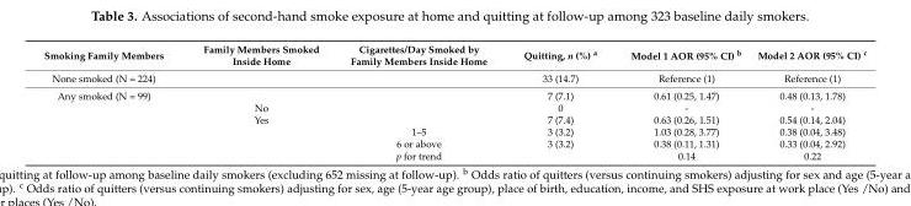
<table><thead><tr><td>Smoking Family Members</td><td>Family Members Smoked Inside Home</td><td>Cigarettes/Day Smoked by Family Members Inside Home</td><td>Quitting, n (%) <sup>a</sup></td><td>Model 1 AOR (95% CI) <sup>b</sup></td><td>Model 2 AOR (95% CI) <sup>c</sup></td></tr></thead><tbody><tr><td>None smoked (N = 224)</td><td></td><td></td><td>33 (14.7)</td><td>Reference (1)</td><td>Reference (1)</td></tr><tr><td rowspan="6">Any smoked (N = 99)</td><td></td><td></td><td>7 (7.1)</td><td>0.61 (0.25, 1.47)</td><td>0.48 (0.13, 1.78)</td></tr><tr><td>No</td><td></td><td>0</td><td>-</td><td>-</td></tr><tr><td>Yes</td><td></td><td>7 (7.4)</td><td>0.63 (0.26, 1.51)</td><td>0.54 (0.14, 2.04)</td></tr><tr><td></td><td>1–5</td><td>3 (3.2)</td><td>1.03 (0.28, 3.77)</td><td>0.38 (0.04, 3.48)</td></tr><tr><td></td><td>6 or above</td><td>3 (3.2)</td><td>0.38 (0.11, 1.31)</td><td>0.33 (0.04, 2.92)</td></tr><tr><td></td><td>p for trend</td><td></td><td>0.14</td><td>0.22</td></tr></tbody></table>